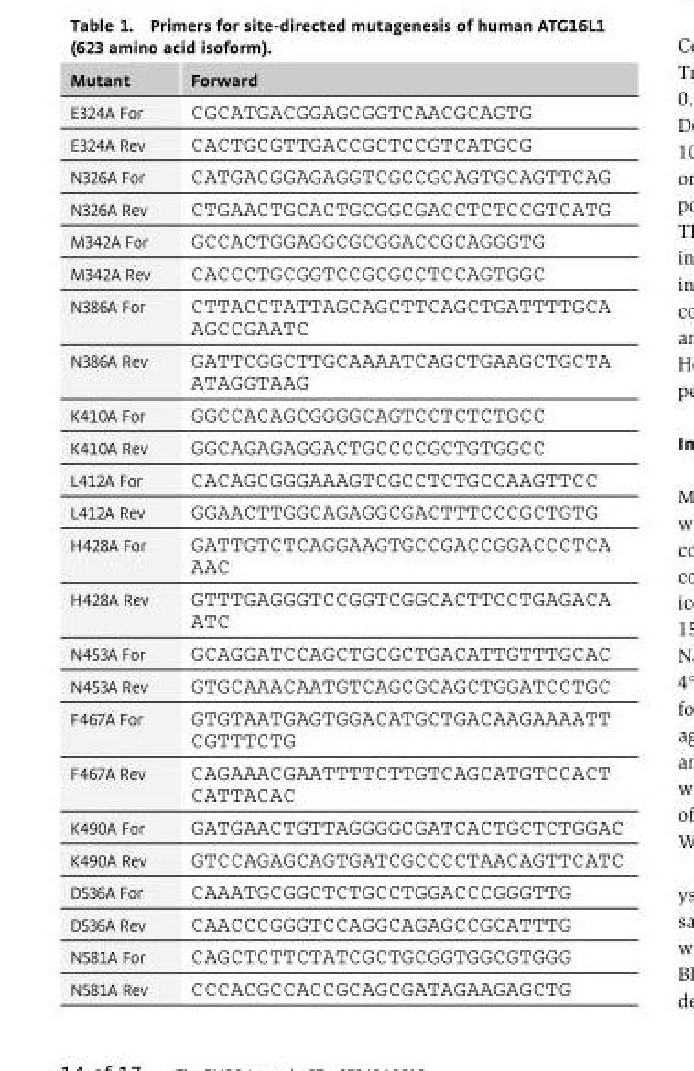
<table><thead><tr><td>Mutant</td><td>Forward</td></tr></thead><tbody><tr><td>E324A For</td><td>CGCATGACGGAGCGGTCAACGCAGTG</td></tr><tr><td>E324A Rev</td><td>CACTGCGTTGACCGCTCCGTCATGCG</td></tr><tr><td>N326A For</td><td>CATGACGGAGAGGTCGCCGCAGTGCAGTTCAG</td></tr><tr><td>N326A Rev</td><td>CTGAACTGCACTGCGGCGACCTCTCCGTCATG</td></tr><tr><td>M342A For</td><td>GCCACTGGAGGCGCGGACCGCAGGGTG</td></tr><tr><td>M342A Rev</td><td>CACCCTGCGGTCCGCGCCTCCAGTGGC</td></tr><tr><td>N386A For</td><td>CTTACCTATTAGCAGCTTCAGCTGATTTTGCA AGCCGAATC</td></tr><tr><td>N386A Rev</td><td>GATTCGGCTTGCAAAATCAGCTGAAGCTGCTA ATAGGTAAG</td></tr><tr><td>K410A For</td><td>GGCCACAGCGGGGCAGTCCTCTCTGCC</td></tr><tr><td>K410A Rev</td><td>GGCAGAGAGGACTGCCCCGCTGTGGCC</td></tr><tr><td>L412A For</td><td>CACAGCGGGAAAGTCGCCTCTGCCAAGTTCC</td></tr><tr><td>L412A Rev</td><td>GGAACTTGGCAGAGGCGACTTTCCCGCTGTG</td></tr><tr><td>H428A For</td><td>GATTGTCTCAGGAAGTGCCGACCGGACCCTCA AAC</td></tr><tr><td>H428A Rev</td><td>GTTTGAGGGTCCGGTCGGCACTTCCTGAGACA ATC</td></tr><tr><td>N453A For</td><td>GCAGGATCCAGCTGCGCTGACATTGTTTGCAC</td></tr><tr><td>N453A Rev</td><td>GTGCAAACAATGTCAGCGCAGCTGGATCCTGC</td></tr><tr><td>F467A For</td><td>GTGTAATGAGTGGACATGCTGACAAGAAAATT CGTTTCTG</td></tr><tr><td>F467A Rev</td><td>CAGAAACGAATTTTCTTGTCAGCATGTCCACT CATTACAC</td></tr><tr><td>K490A For</td><td>GATGAACTGTTAGGGGCGATCACTGCTCTGGAC</td></tr><tr><td>K490A Rev</td><td>GTCCAGAGCAGTGATCGCCCCTAACAGTTCATC</td></tr><tr><td>D536A For</td><td>CAAATGCGGCTCTGCCTGGACCCGGGTTG</td></tr><tr><td>D536A Rev</td><td>CAACCCGGGTCCAGGCAGAGCCGCATTTG</td></tr><tr><td>N581A For</td><td>CAGCTCTTCTATCGCTGCGGTGGCGTGGG</td></tr><tr><td>N581A Rev</td><td>CCCACGCCACCGCAGCGATAGAAGAGCTG</td></tr></tbody></table>